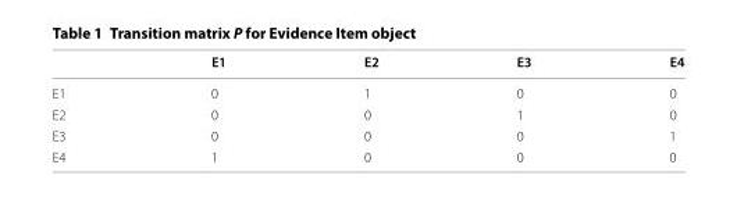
<table><thead><tr><td></td><td>E1</td><td>E2</td><td>E3</td><td>E4</td></tr></thead><tbody><tr><td>E1</td><td>0</td><td>1</td><td>0</td><td>0</td></tr><tr><td>E2</td><td>0</td><td>0</td><td>1</td><td>0</td></tr><tr><td>E3</td><td>0</td><td>0</td><td>0</td><td>1</td></tr><tr><td>E4</td><td>1</td><td>0</td><td>0</td><td>0</td></tr></tbody></table>